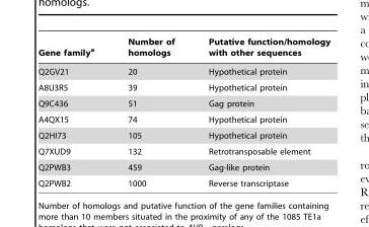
<table><thead><tr><td>Gene family<sup>a</sup></td><td>Number of homologs</td><td>Putative function/homology with other sequences</td></tr></thead><tbody><tr><td>Q2GV21</td><td>20</td><td>Hypothetical protein</td></tr><tr><td>A8U3R5</td><td>39</td><td>Hypothetical protein</td></tr><tr><td>Q9C436</td><td>51</td><td>Gag protein</td></tr><tr><td>A4QX15</td><td>74</td><td>Hypothetical protein</td></tr><tr><td>Q2HI73</td><td>105</td><td>Hypothetical protein</td></tr><tr><td>Q7XUD9</td><td>132</td><td>Retrotransposable element</td></tr><tr><td>Q2PWB3</td><td>459</td><td>Gag-like protein</td></tr><tr><td>Q2PWB2</td><td>1000</td><td>Reverse transcriptase</td></tr></tbody></table>